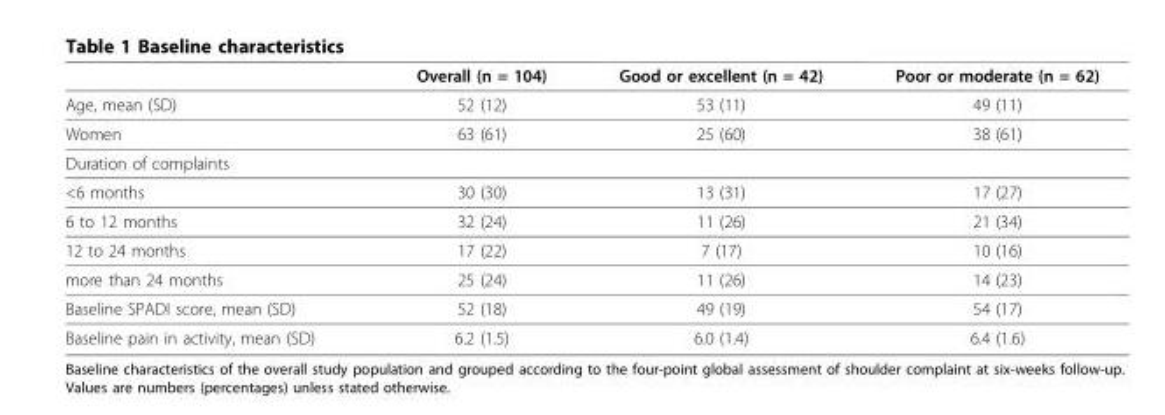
<table><thead><tr><td></td><td>Overall (n = 104)</td><td>Good or excellent (n = 42)</td><td>Poor or moderate (n = 62)</td></tr></thead><tbody><tr><td>Age, mean (SD)</td><td>52 (12)</td><td>53 (11)</td><td>49 (11)</td></tr><tr><td>Women</td><td>63 (61)</td><td>25 (60)</td><td>38 (61)</td></tr><tr><td colspan="4">Duration of complaints</td></tr><tr><td>&lt;6 months</td><td>30 (30)</td><td>13 (31)</td><td>17 (27)</td></tr><tr><td>6 to 12 months</td><td>32 (24)</td><td>11 (26)</td><td>21 (34)</td></tr><tr><td>12 to 24 months</td><td>17 (22)</td><td>7 (17)</td><td>10 (16)</td></tr><tr><td>more than 24 months</td><td>25 (24)</td><td>11 (26)</td><td>14 (23)</td></tr><tr><td>Baseline SPADI score, mean (SD)</td><td>52 (18)</td><td>49 (19)</td><td>54 (17)</td></tr><tr><td>Baseline pain in activity, mean (SD)</td><td>6.2 (1.5)</td><td>6.0 (1.4)</td><td>6.4 (1.6)</td></tr></tbody></table>